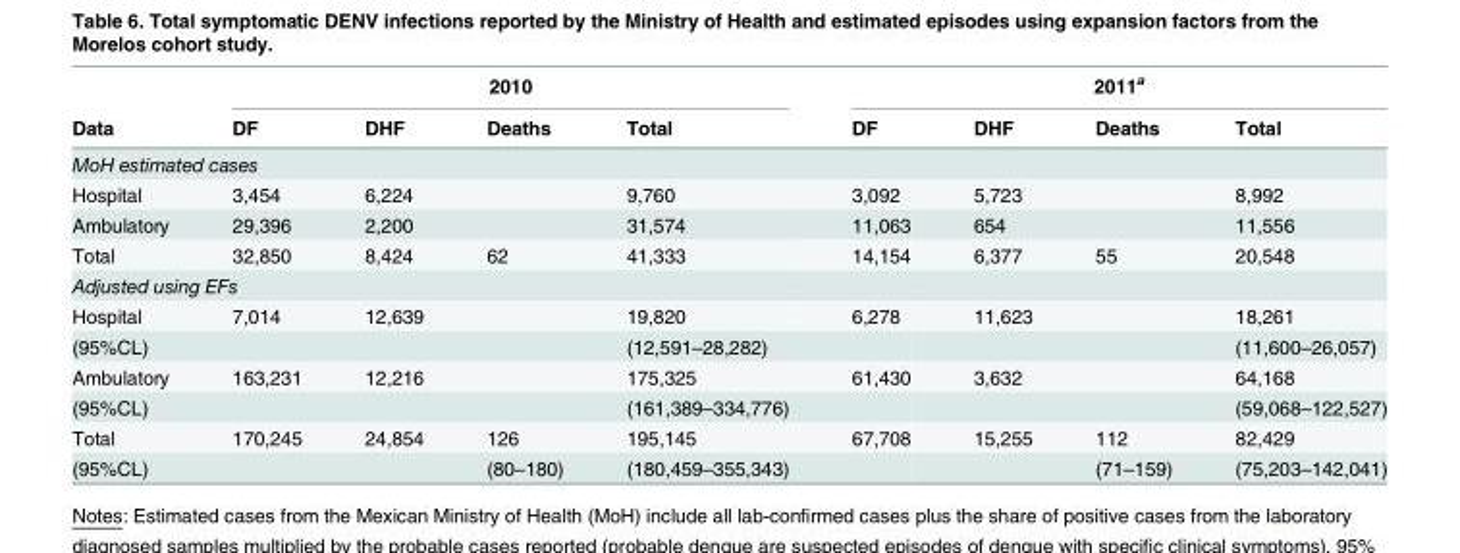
<table><thead><tr><td rowspan="2">Data</td><td colspan="4">2010</td><td colspan="4">2011<sup>a</sup></td></tr><tr><td>DF</td><td>DHF</td><td>Deaths</td><td>Total</td><td>DF</td><td>DHF</td><td>Deaths</td><td>Total</td></tr></thead><tbody><tr><td colspan="9">MoH estimated cases</td></tr><tr><td>Hospital</td><td>3,454</td><td>6,224</td><td></td><td>9,760</td><td>3,092</td><td>5,723</td><td></td><td>8,992</td></tr><tr><td>Ambulatory</td><td>29,396</td><td>2,200</td><td></td><td>31,574</td><td>11,063</td><td>654</td><td></td><td>11,556</td></tr><tr><td>Total</td><td>32,850</td><td>8,424</td><td>62</td><td>41,333</td><td>14,154</td><td>6,377</td><td>55</td><td>20,548</td></tr><tr><td colspan="9">Adjusted using EFs</td></tr><tr><td>Hospital</td><td>7,014</td><td>12,639</td><td></td><td>19,820</td><td>6,278</td><td>11,623</td><td></td><td>18,261</td></tr><tr><td>(95%CL)</td><td></td><td></td><td></td><td>(12,591–28,282)</td><td></td><td></td><td></td><td>(11,600–26,057)</td></tr><tr><td>Ambulatory</td><td>163,231</td><td>12,216</td><td></td><td>175,325</td><td>61,430</td><td>3,632</td><td></td><td>64,168</td></tr><tr><td>(95%CL)</td><td></td><td></td><td></td><td>(161,389–334,776)</td><td></td><td></td><td></td><td>(59,068–122,527)</td></tr><tr><td>Total</td><td>170,245</td><td>24,854</td><td>126</td><td>195,145</td><td>67,708</td><td>15,255</td><td>112</td><td>82,429</td></tr><tr><td>(95%CL)</td><td></td><td></td><td>(80–180)</td><td>(180,459–355,343)</td><td></td><td></td><td>(71–159)</td><td>(75,203–142,041)</td></tr></tbody></table>